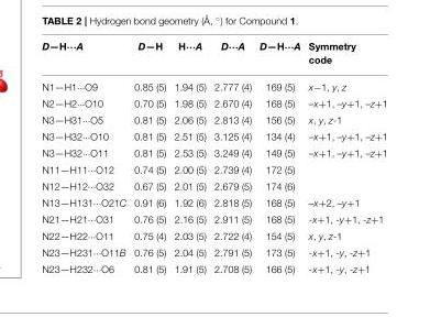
<table><thead><tr><td>D—H···A</td><td>D—H</td><td>H···A</td><td>D···A</td><td>D—H···A</td><td>Symmetry code</td></tr></thead><tbody><tr><td>N1—H1···O9</td><td>0.85 (5)</td><td>1.94 (5)</td><td>2.777 (4)</td><td>169 (5)</td><td>x−1, y, z</td></tr><tr><td>N2—H2···O10</td><td>0.70 (5)</td><td>1.98 (5)</td><td>2.670 (4)</td><td>168 (5)</td><td>–x+1, –y+1, –z+1</td></tr><tr><td>N3—H31···O5</td><td>0.81 (5)</td><td>2.06 (5)</td><td>2.813 (4)</td><td>156 (5)</td><td>x, y, z-1</td></tr><tr><td>N3—H32···O10</td><td>0.81 (5)</td><td>2.51 (5)</td><td>3.125 (4)</td><td>134 (4)</td><td>–x+1, –y+1, –z+1</td></tr><tr><td>N3—H32···O11</td><td>0.81 (5)</td><td>2.53 (5)</td><td>3.249 (4)</td><td>149 (5)</td><td>–x+1, –y+1, –z+1</td></tr><tr><td>N11—H11···O12</td><td>0.74 (5)</td><td>2.00 (5)</td><td>2.739 (4)</td><td>172 (5)</td><td></td></tr><tr><td>N12—H12···O32</td><td>0.67 (5)</td><td>2.01 (5)</td><td>2.679 (5)</td><td>174 (6)</td><td></td></tr><tr><td>N13—H131···O21C</td><td>0.91 (6)</td><td>1.92 (6)</td><td>2.818 (5)</td><td>168 (5)</td><td>–x+2, –y+1</td></tr><tr><td>N21—H21···O31</td><td>0.76 (5)</td><td>2.16 (5)</td><td>2.911 (5)</td><td>168 (5)</td><td>-x+1, -y+1, -z+1</td></tr><tr><td>N22—H22···O11</td><td>0.75 (4)</td><td>2.03 (5)</td><td>2.722 (4)</td><td>154 (5)</td><td>x, y, z-1</td></tr><tr><td>N23—H231···O11B</td><td>0.76 (5)</td><td>2.04 (5)</td><td>2.791 (5)</td><td>173 (5)</td><td>-x+1, -y, -z+1</td></tr><tr><td>N23—H232···O6</td><td>0.81 (5)</td><td>1.91 (5)</td><td>2.708 (5)</td><td>166 (5)</td><td>-x+1, -y, -z+1</td></tr></tbody></table>